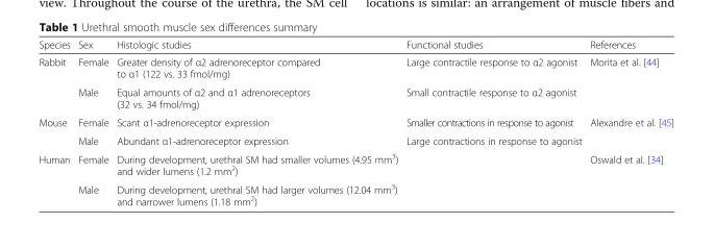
<table><thead><tr><td>Species</td><td>Sex</td><td>Histologic studies</td><td>Functional studies</td><td>References</td></tr></thead><tbody><tr><td rowspan="2">Rabbit</td><td>Female</td><td>Greater density of α2 adrenoreceptor compared to α1 (122 vs. 33 fmol/mg)</td><td>Large contractile response to α2 agonist</td><td>Morita et al. [44]</td></tr><tr><td>Male</td><td>Equal amounts of α2 and α1 adrenoreceptors (32 vs. 34 fmol/mg)</td><td>Small contractile response to α2 agonist</td><td></td></tr><tr><td rowspan="2">Mouse</td><td>Female</td><td>Scant α1-adrenoreceptor expression</td><td>Smaller contractions in response to agonist</td><td>Alexandre et al. [45]</td></tr><tr><td>Male</td><td>Abundant α1-adrenoreceptor expression</td><td>Large contractions in response to agonist</td><td></td></tr><tr><td rowspan="2">Human</td><td>Female</td><td>During development, urethral SM had smaller volumes (4.95 mm<sup>3</sup>) and wider lumens (1.2 mm<sup>2</sup>)</td><td></td><td>Oswald et al. [34]</td></tr><tr><td>Male</td><td>During development, urethral SM had larger volumes (12.04 mm<sup>3</sup>) and narrower lumens (1.18 mm<sup>2</sup>)</td><td></td><td></td></tr></tbody></table>